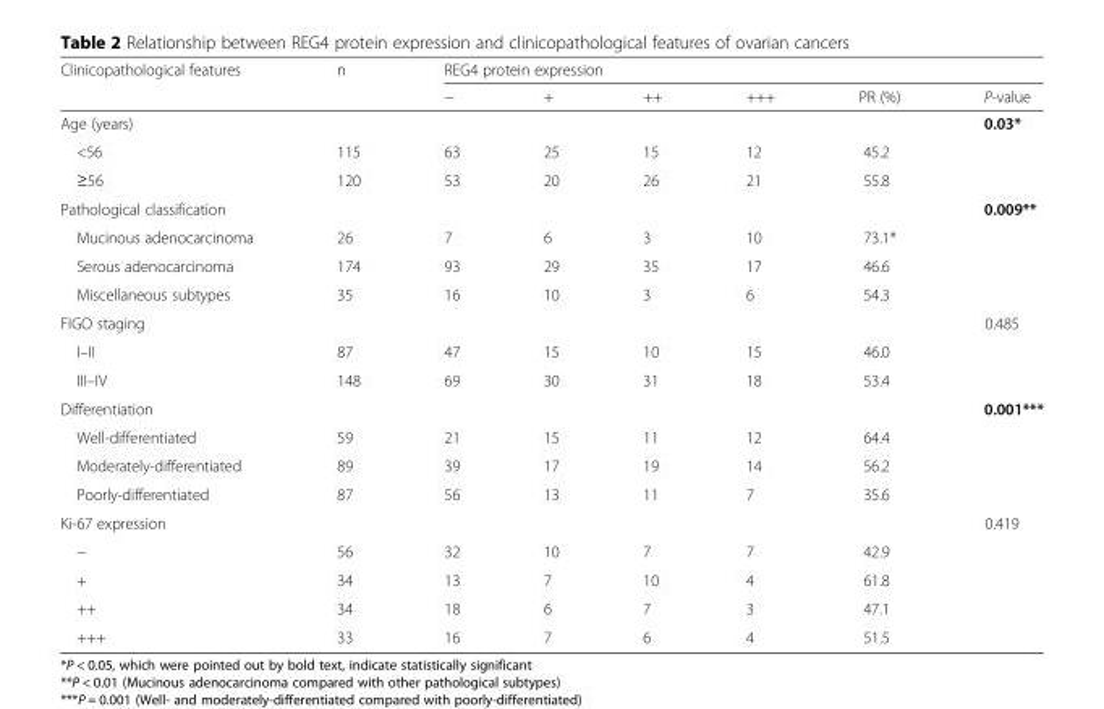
<table><thead><tr><td rowspan="2">Clinicopathological features</td><td rowspan="2">n</td><td colspan="6">REG4 protein expression</td></tr><tr><td>−</td><td>+</td><td>++</td><td>+++</td><td>PR (%)</td><td>P-value</td></tr></thead><tbody><tr><td>Age (years)</td><td></td><td></td><td></td><td></td><td></td><td></td><td>0.03*</td></tr><tr><td>&lt;56</td><td>115</td><td>63</td><td>25</td><td>15</td><td>12</td><td>45.2</td><td></td></tr><tr><td>≥56</td><td>120</td><td>53</td><td>20</td><td>26</td><td>21</td><td>55.8</td><td></td></tr><tr><td>Pathological classification</td><td></td><td></td><td></td><td></td><td></td><td></td><td>0.009**</td></tr><tr><td>Mucinous adenocarcinoma</td><td>26</td><td>7</td><td>6</td><td>3</td><td>10</td><td>73.1*</td><td></td></tr><tr><td>Serous adenocarcinoma</td><td>174</td><td>93</td><td>29</td><td>35</td><td>17</td><td>46.6</td><td></td></tr><tr><td>Miscellaneous subtypes</td><td>35</td><td>16</td><td>10</td><td>3</td><td>6</td><td>54.3</td><td></td></tr><tr><td>FIGO staging</td><td></td><td></td><td></td><td></td><td></td><td></td><td>0.485</td></tr><tr><td>I–II</td><td>87</td><td>47</td><td>15</td><td>10</td><td>15</td><td>46.0</td><td></td></tr><tr><td>III–IV</td><td>148</td><td>69</td><td>30</td><td>31</td><td>18</td><td>53.4</td><td></td></tr><tr><td>Differentiation</td><td></td><td></td><td></td><td></td><td></td><td></td><td>0.001***</td></tr><tr><td>Well-differentiated</td><td>59</td><td>21</td><td>15</td><td>11</td><td>12</td><td>64.4</td><td></td></tr><tr><td>Moderately-differentiated</td><td>89</td><td>39</td><td>17</td><td>19</td><td>14</td><td>56.2</td><td></td></tr><tr><td>Poorly-differentiated</td><td>87</td><td>56</td><td>13</td><td>11</td><td>7</td><td>35.6</td><td></td></tr><tr><td>Ki-67 expression</td><td></td><td></td><td></td><td></td><td></td><td></td><td>0.419</td></tr><tr><td>−</td><td>56</td><td>32</td><td>10</td><td>7</td><td>7</td><td>42.9</td><td></td></tr><tr><td>+</td><td>34</td><td>13</td><td>7</td><td>10</td><td>4</td><td>61.8</td><td></td></tr><tr><td>++</td><td>34</td><td>18</td><td>6</td><td>7</td><td>3</td><td>47.1</td><td></td></tr><tr><td>+++</td><td>33</td><td>16</td><td>7</td><td>6</td><td>4</td><td>51.5</td><td></td></tr></tbody></table>